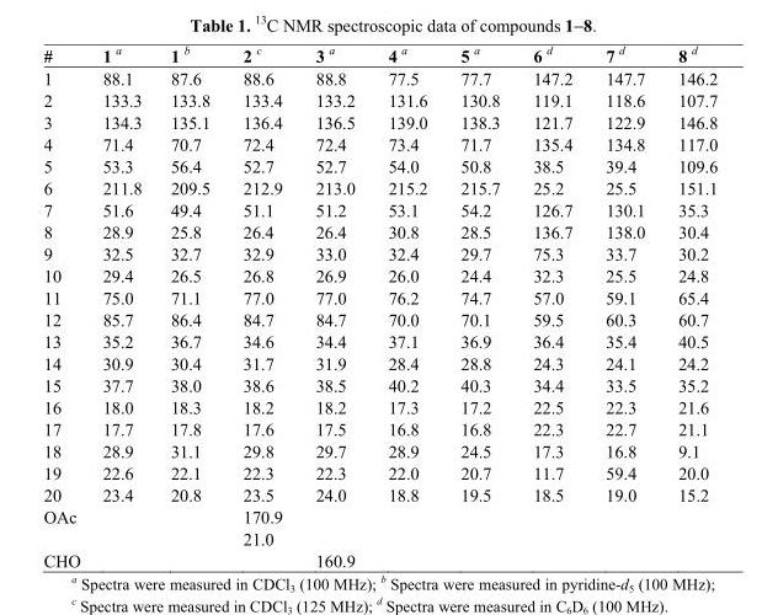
<table><thead><tr><td>#</td><td>1 a</td><td>1 b</td><td>2 c</td><td>3 a</td><td>4 a</td><td>5 a</td><td>6 d</td><td>7 d</td><td>8 d</td></tr></thead><tbody><tr><td>1</td><td>88.1</td><td>87.6</td><td>88.6</td><td>88.8</td><td>77.5</td><td>77.7</td><td>147.2</td><td>147.7</td><td>146.2</td></tr><tr><td>2</td><td>133.3</td><td>133.8</td><td>133.4</td><td>133.2</td><td>131.6</td><td>130.8</td><td>119.1</td><td>118.6</td><td>107.7</td></tr><tr><td>3</td><td>134.3</td><td>135.1</td><td>136.4</td><td>136.5</td><td>139.0</td><td>138.3</td><td>121.7</td><td>122.9</td><td>146.8</td></tr><tr><td>4</td><td>71.4</td><td>70.7</td><td>72.4</td><td>72.4</td><td>73.4</td><td>71.7</td><td>135.4</td><td>134.8</td><td>117.0</td></tr><tr><td>5</td><td>53.3</td><td>56.4</td><td>52.7</td><td>52.7</td><td>54.0</td><td>50.8</td><td>38.5</td><td>39.4</td><td>109.6</td></tr><tr><td>6</td><td>211.8</td><td>209.5</td><td>212.9</td><td>213.0</td><td>215.2</td><td>215.7</td><td>25.2</td><td>25.5</td><td>151.1</td></tr><tr><td>7</td><td>51.6</td><td>49.4</td><td>51.1</td><td>51.2</td><td>53.1</td><td>54.2</td><td>126.7</td><td>130.1</td><td>35.3</td></tr><tr><td>8</td><td>28.9</td><td>25.8</td><td>26.4</td><td>26.4</td><td>30.8</td><td>28.5</td><td>136.7</td><td>138.0</td><td>30.4</td></tr><tr><td>9</td><td>32.5</td><td>32.7</td><td>32.9</td><td>33.0</td><td>32.4</td><td>29.7</td><td>75.3</td><td>33.7</td><td>30.2</td></tr><tr><td>10</td><td>29.4</td><td>26.5</td><td>26.8</td><td>26.9</td><td>26.0</td><td>24.4</td><td>32.3</td><td>25.5</td><td>24.8</td></tr><tr><td>11</td><td>75.0</td><td>71.1</td><td>77.0</td><td>77.0</td><td>76.2</td><td>74.7</td><td>57.0</td><td>59.1</td><td>65.4</td></tr><tr><td>12</td><td>85.7</td><td>86.4</td><td>84.7</td><td>84.7</td><td>70.0</td><td>70.1</td><td>59.5</td><td>60.3</td><td>60.7</td></tr><tr><td>13</td><td>35.2</td><td>36.7</td><td>34.6</td><td>34.4</td><td>37.1</td><td>36.9</td><td>36.4</td><td>35.4</td><td>40.5</td></tr><tr><td>14</td><td>30.9</td><td>30.4</td><td>31.7</td><td>31.9</td><td>28.4</td><td>28.8</td><td>24.3</td><td>24.1</td><td>24.2</td></tr><tr><td>15</td><td>37.7</td><td>38.0</td><td>38.6</td><td>38.5</td><td>40.2</td><td>40.3</td><td>34.4</td><td>33.5</td><td>35.2</td></tr><tr><td>16</td><td>18.0</td><td>18.3</td><td>18.2</td><td>18.2</td><td>17.3</td><td>17.2</td><td>22.5</td><td>22.3</td><td>21.6</td></tr><tr><td>17</td><td>17.7</td><td>17.8</td><td>17.6</td><td>17.5</td><td>16.8</td><td>16.8</td><td>22.3</td><td>22.7</td><td>21.1</td></tr><tr><td>18</td><td>28.9</td><td>31.1</td><td>29.8</td><td>29.7</td><td>28.9</td><td>24.5</td><td>17.3</td><td>16.8</td><td>9.1</td></tr><tr><td>19</td><td>22.6</td><td>22.1</td><td>22.3</td><td>22.3</td><td>22.0</td><td>20.7</td><td>11.7</td><td>59.4</td><td>20.0</td></tr><tr><td>20</td><td>23.4</td><td>20.8</td><td>23.5</td><td>24.0</td><td>18.8</td><td>19.5</td><td>18.5</td><td>19.0</td><td>15.2</td></tr><tr><td rowspan="2">OAc</td><td></td><td></td><td>170.9</td><td></td><td></td><td></td><td></td><td></td><td></td></tr><tr><td></td><td></td><td>21.0</td><td></td><td></td><td></td><td></td><td></td><td></td></tr><tr><td>CHO</td><td></td><td></td><td></td><td>160.9</td><td></td><td></td><td></td><td></td><td></td></tr></tbody></table>